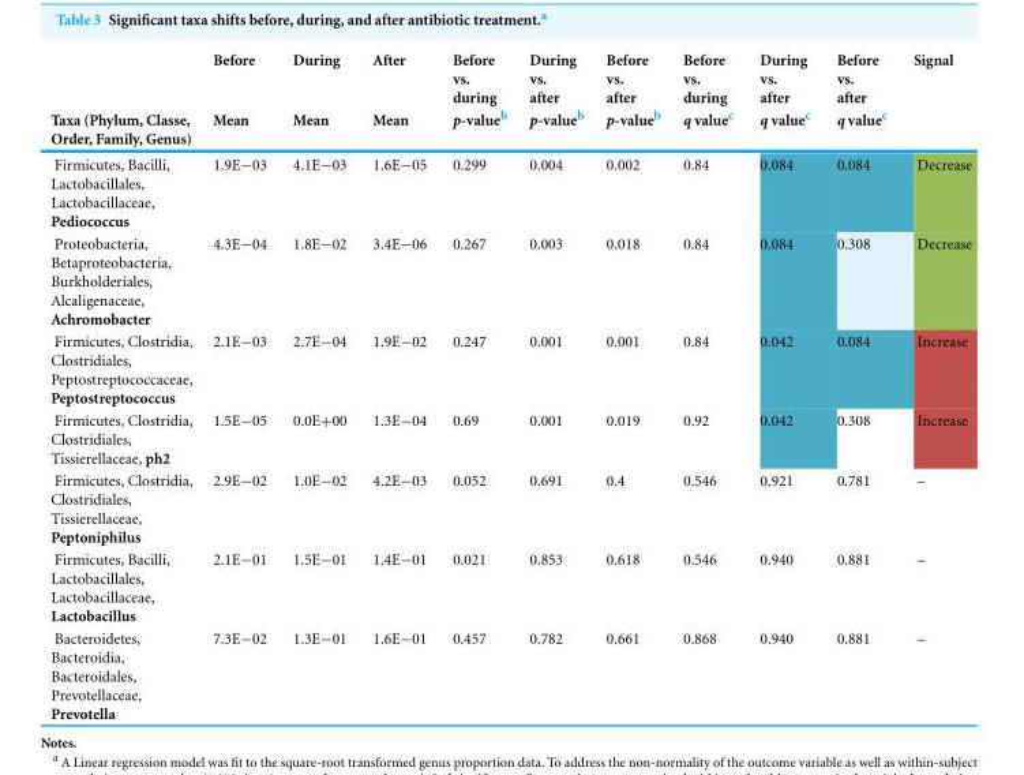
<table><thead><tr><td rowspan="2">Taxa (Phylum, Classe, Order, Family, Genus)</td><td rowspan="2">Before Mean</td><td rowspan="2">During Mean</td><td rowspan="2">After Mean</td><td rowspan="2">Before vs. during p-value<sup>b</sup></td><td rowspan="2">During vs. after p-value<sup>b</sup></td><td rowspan="2">Before vs. after p-value<sup>b</sup></td><td rowspan="2">Before vs. during q value<sup>c</sup></td><td rowspan="2">During vs. after q value<sup>c</sup></td><td rowspan="2">Before vs. after q value<sup>c</sup></td><td rowspan="2">Signal</td></tr><tr></tr></thead><tbody><tr><td>Firmicutes, Bacilli, Lactobacillales, Lactobacillaceae, Pediococcus</td><td>1.9E−03</td><td>4.1E−03</td><td>1.6E−05</td><td>0.299</td><td>0.004</td><td>0.002</td><td>0.84</td><td>0.084</td><td>0.084</td><td>Decrease</td></tr><tr><td>Proteobacteria, Betaproteobacteria, Burkholderiales, Alcaligenaceae, Achromobacter</td><td>4.3E−04</td><td>1.8E−02</td><td>3.4E−06</td><td>0.267</td><td>0.003</td><td>0.018</td><td>0.84</td><td>0.084</td><td>0.308</td><td>Decrease</td></tr><tr><td>Firmicutes, Clostridia, Clostridiales, Peptostreptococcaceae, Peptostreptococcus</td><td>2.1E−03</td><td>2.7E−04</td><td>1.9E−02</td><td>0.247</td><td>0.001</td><td>0.001</td><td>0.84</td><td>0.042</td><td>0.084</td><td>Increase</td></tr><tr><td>Firmicutes, Clostridia, Clostridiales, Tissierellaceae, ph2</td><td>1.5E−05</td><td>0.0E+00</td><td>1.3E−04</td><td>0.69</td><td>0.001</td><td>0.019</td><td>0.92</td><td>0.042</td><td>0.308</td><td>Increase</td></tr><tr><td>Firmicutes, Clostridia, Clostridiales, Tissierellaceae, Peptoniphilus</td><td>2.9E−02</td><td>1.0E−02</td><td>4.2E−03</td><td>0.052</td><td>0.691</td><td>0.4</td><td>0.546</td><td>0.921</td><td>0.781</td><td>–</td></tr><tr><td>Firmicutes, Bacilli, Lactobacillales, Lactobacillaceae, Lactobacillus</td><td>2.1E−01</td><td>1.5E−01</td><td>1.4E−01</td><td>0.021</td><td>0.853</td><td>0.618</td><td>0.546</td><td>0.940</td><td>0.881</td><td>–</td></tr><tr><td>Bacteroidetes, Bacteroidia, Bacteroidales, Prevotellaceae, Prevotella</td><td>7.3E−02</td><td>1.3E−01</td><td>1.6E−01</td><td>0.457</td><td>0.782</td><td>0.661</td><td>0.868</td><td>0.940</td><td>0.881</td><td>–</td></tr></tbody></table>